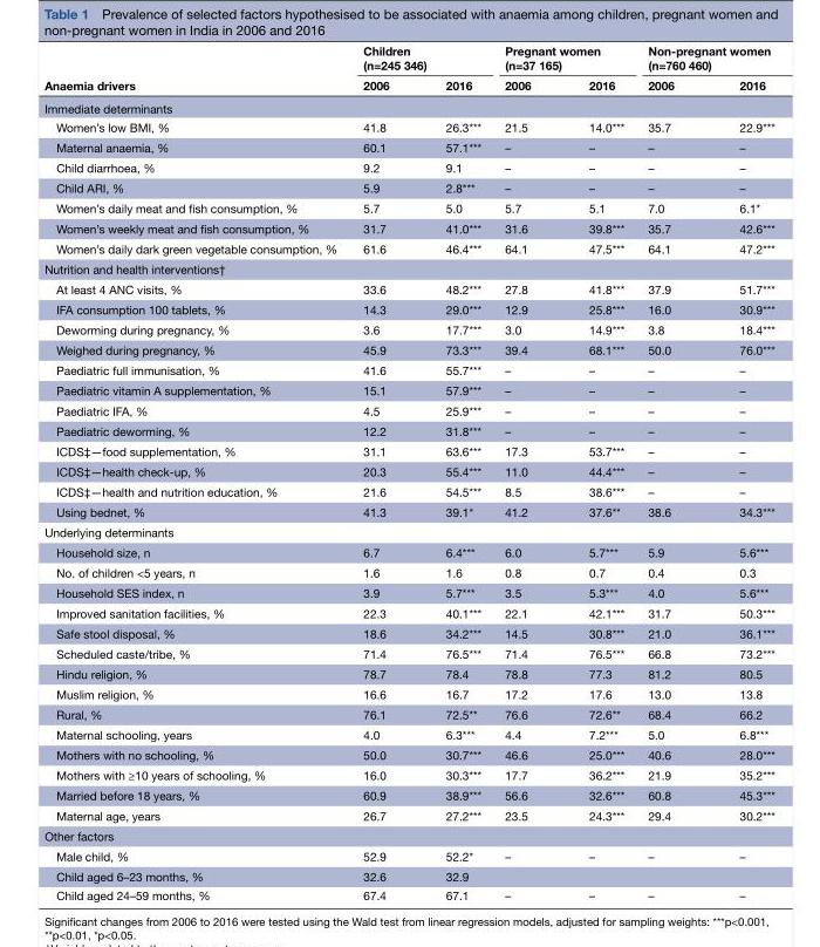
<table><thead><tr><td rowspan="2">Anaemia drivers</td><td colspan="2">Children (n=245 346)</td><td colspan="2">Pregnant women (n=37 165)</td><td colspan="2">Non-pregnant women (n=760 460)</td></tr><tr><td>2006</td><td>2016</td><td>2006</td><td>2016</td><td>2006</td><td>2016</td></tr></thead><tbody><tr><td colspan="7">Immediate determinants</td></tr><tr><td>Women’s low BMI, %</td><td>41.8</td><td>26.3***</td><td>21.5</td><td>14.0***</td><td>35.7</td><td>22.9***</td></tr><tr><td>Maternal anaemia, %</td><td>60.1</td><td>57.1***</td><td>–</td><td>–</td><td>–</td><td>–</td></tr><tr><td>Child diarrhoea, %</td><td>9.2</td><td>9.1</td><td>–</td><td>–</td><td>–</td><td>–</td></tr><tr><td>Child ARI, %</td><td>5.9</td><td>2.8***</td><td>–</td><td>–</td><td>–</td><td>–</td></tr><tr><td>Women’s daily meat and fish consumption, %</td><td>5.7</td><td>5.0</td><td>5.7</td><td>5.1</td><td>7.0</td><td>6.1*</td></tr><tr><td>Women’s weekly meat and fish consumption, %</td><td>31.7</td><td>41.0***</td><td>31.6</td><td>39.8***</td><td>35.7</td><td>42.6***</td></tr><tr><td>Women’s daily dark green vegetable consumption, %</td><td>61.6</td><td>46.4***</td><td>64.1</td><td>47.5***</td><td>64.1</td><td>47.2***</td></tr><tr><td colspan="7">Nutrition and health interventions†</td></tr><tr><td>At least 4 ANC visits, %</td><td>33.6</td><td>48.2***</td><td>27.8</td><td>41.8***</td><td>37.9</td><td>51.7***</td></tr><tr><td>IFA consumption 100 tablets, %</td><td>14.3</td><td>29.0***</td><td>12.9</td><td>25.8***</td><td>16.0</td><td>30.9***</td></tr><tr><td>Deworming during pregnancy, %</td><td>3.6</td><td>17.7***</td><td>3.0</td><td>14.9***</td><td>3.8</td><td>18.4***</td></tr><tr><td>Weighed during pregnancy, %</td><td>45.9</td><td>73.3***</td><td>39.4</td><td>68.1***</td><td>50.0</td><td>76.0***</td></tr><tr><td>Paediatric full immunisation, %</td><td>41.6</td><td>55.7***</td><td>–</td><td>–</td><td>–</td><td>–</td></tr><tr><td>Paediatric vitamin A supplementation, %</td><td>15.1</td><td>57.9***</td><td>–</td><td>–</td><td>–</td><td>–</td></tr><tr><td>Paediatric IFA, %</td><td>4.5</td><td>25.9***</td><td>–</td><td>–</td><td>–</td><td>–</td></tr><tr><td>Paediatric deworming, %</td><td>12.2</td><td>31.8***</td><td>–</td><td>–</td><td>–</td><td>–</td></tr><tr><td>ICDS‡—food supplementation, %</td><td>31.1</td><td>63.6***</td><td>17.3</td><td>53.7***</td><td>–</td><td>–</td></tr><tr><td>ICDS‡—health check-up, %</td><td>20.3</td><td>55.4***</td><td>11.0</td><td>44.4***</td><td>–</td><td>–</td></tr><tr><td>ICDS‡—health and nutrition education, %</td><td>21.6</td><td>54.5***</td><td>8.5</td><td>38.6***</td><td>–</td><td>–</td></tr><tr><td>Using bednet, %</td><td>41.3</td><td>39.1*</td><td>41.2</td><td>37.6**</td><td>38.6</td><td>34.3***</td></tr><tr><td colspan="7">Underlying determinants</td></tr><tr><td>Household size, n</td><td>6.7</td><td>6.4***</td><td>6.0</td><td>5.7***</td><td>5.9</td><td>5.6***</td></tr><tr><td>No. of children &lt;5 years, n</td><td>1.6</td><td>1.6</td><td>0.8</td><td>0.7</td><td>0.4</td><td>0.3</td></tr><tr><td>Household SES index, n</td><td>3.9</td><td>5.7***</td><td>3.5</td><td>5.3***</td><td>4.0</td><td>5.6***</td></tr><tr><td>Improved sanitation facilities, %</td><td>22.3</td><td>40.1***</td><td>22.1</td><td>42.1***</td><td>31.7</td><td>50.3***</td></tr><tr><td>Safe stool disposal, %</td><td>18.6</td><td>34.2***</td><td>14.5</td><td>30.8***</td><td>21.0</td><td>36.1***</td></tr><tr><td>Scheduled caste/tribe, %</td><td>71.4</td><td>76.5***</td><td>71.4</td><td>76.5***</td><td>66.8</td><td>73.2***</td></tr><tr><td>Hindu religion, %</td><td>78.7</td><td>78.4</td><td>78.8</td><td>77.3</td><td>81.2</td><td>80.5</td></tr><tr><td>Muslim religion, %</td><td>16.6</td><td>16.7</td><td>17.2</td><td>17.6</td><td>13.0</td><td>13.8</td></tr><tr><td>Rural, %</td><td>76.1</td><td>72.5**</td><td>76.6</td><td>72.6**</td><td>68.4</td><td>66.2</td></tr><tr><td>Maternal schooling, years</td><td>4.0</td><td>6.3***</td><td>4.4</td><td>7.2***</td><td>5.0</td><td>6.8***</td></tr><tr><td>Mothers with no schooling, %</td><td>50.0</td><td>30.7***</td><td>46.6</td><td>25.0***</td><td>40.6</td><td>28.0***</td></tr><tr><td>Mothers with ≥10 years of schooling, %</td><td>16.0</td><td>30.3***</td><td>17.7</td><td>36.2***</td><td>21.9</td><td>35.2***</td></tr><tr><td>Married before 18 years, %</td><td>60.9</td><td>38.9***</td><td>56.6</td><td>32.6***</td><td>60.8</td><td>45.3***</td></tr><tr><td>Maternal age, years</td><td>26.7</td><td>27.2***</td><td>23.5</td><td>24.3***</td><td>29.4</td><td>30.2***</td></tr><tr><td colspan="7">Other factors</td></tr><tr><td>Male child, %</td><td>52.9</td><td>52.2*</td><td>–</td><td>–</td><td>–</td><td>–</td></tr><tr><td>Child aged 6–23 months, %</td><td>32.6</td><td>32.9</td><td></td><td></td><td></td><td></td></tr><tr><td>Child aged 24–59 months, %</td><td>67.4</td><td>67.1</td><td>–</td><td>–</td><td>–</td><td>–</td></tr></tbody></table>